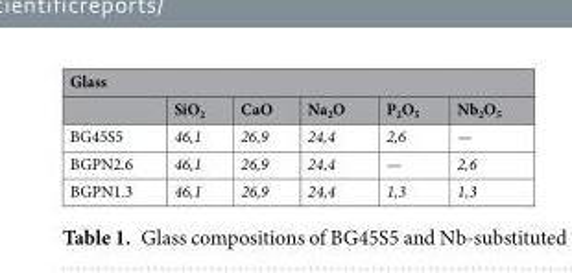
<table><thead><tr><td colspan="6">Glass</td></tr><tr><td></td><td>SiO<sub>2</sub></td><td>CaO</td><td>Na<sub>2</sub>O</td><td>P<sub>2</sub>O<sub>5</sub></td><td>Nb<sub>2</sub>O<sub>5</sub></td></tr></thead><tbody><tr><td>BG45S5</td><td>46,1</td><td>26,9</td><td>24,4</td><td>2,6</td><td>—</td></tr><tr><td>BGPN2.6</td><td>46,1</td><td>26,9</td><td>24,4</td><td>—</td><td>2,6</td></tr><tr><td>BGPN1.3</td><td>46,1</td><td>26,9</td><td>24,4</td><td>1,3</td><td>1,3</td></tr></tbody></table>